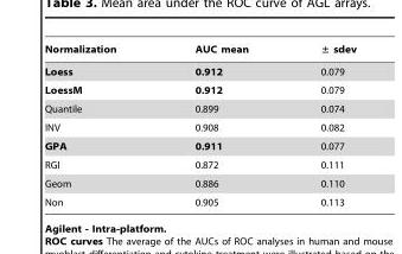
<table><thead><tr><td>Normalization</td><td>AUC mean</td><td>± sdev</td></tr></thead><tbody><tr><td>Loess</td><td>0.912</td><td>0.079</td></tr><tr><td>LoessM</td><td>0.912</td><td>0.079</td></tr><tr><td>Quantile</td><td>0.899</td><td>0.074</td></tr><tr><td>INV</td><td>0.908</td><td>0.082</td></tr><tr><td>GPA</td><td>0.911</td><td>0.077</td></tr><tr><td>RGI</td><td>0.872</td><td>0.111</td></tr><tr><td>Geom</td><td>0.886</td><td>0.110</td></tr><tr><td>Non</td><td>0.905</td><td>0.113</td></tr></tbody></table>